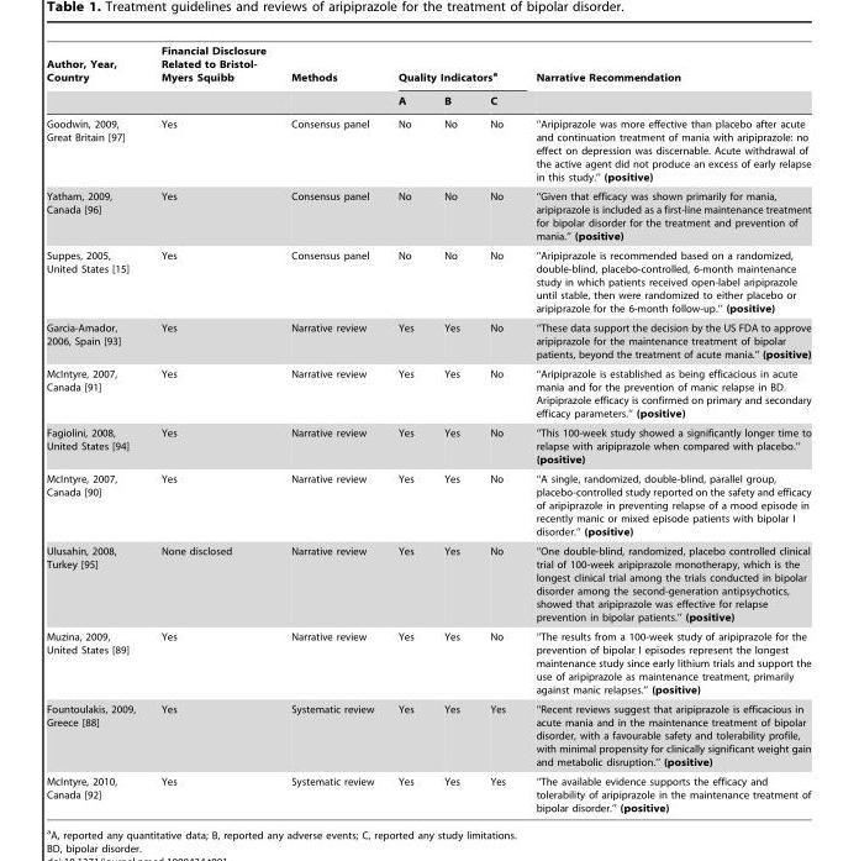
<table><thead><tr><td rowspan="2">Author, Year, Country</td><td rowspan="2">Financial Disclosure Related to Bristol- Myers Squibb</td><td rowspan="2">Methods</td><td colspan="3">Quality Indicators<sup>a</sup></td><td rowspan="2">Narrative Recommendation</td></tr><tr><td>A</td><td>B</td><td>C</td></tr></thead><tbody><tr><td>Goodwin, 2009, Great Britain [97]</td><td>Yes</td><td>Consensus panel</td><td>No</td><td>No</td><td>No</td><td>‘‘Aripiprazole was more effective than placebo after acute and continuation treatment of mania with aripiprazole: no effect on depression was discernable. Acute withdrawal of the active agent did not produce an excess of early relapse in this study.’’ (positive)</td></tr><tr><td>Yatham, 2009, Canada [96]</td><td>Yes</td><td>Consensus panel</td><td>No</td><td>No</td><td>No</td><td>‘‘Given that efficacy was shown primarily for mania, aripiprazole is included as a first-line maintenance treatment for bipolar disorder for the treatment and prevention of mania.’’ (positive)</td></tr><tr><td>Suppes, 2005, United States [15]</td><td>Yes</td><td>Consensus panel</td><td>No</td><td>No</td><td>No</td><td>‘‘Aripiprazole is recommended based on a randomized, double-blind, placebo-controlled, 6-month maintenance study in which patients received open-label aripiprazole until stable, then were randomized to either placebo or aripiprazole for the 6-month follow-up.’’ (positive)</td></tr><tr><td>Garcia-Amador, 2006, Spain [93]</td><td>Yes</td><td>Narrative review</td><td>Yes</td><td>Yes</td><td>No</td><td>‘‘These data support the decision by the US FDA to approve aripiprazole for the maintenance treatment of bipolar patients, beyond the treatment of acute mania.’’ (positive)</td></tr><tr><td>McIntyre, 2007, Canada [91]</td><td>Yes</td><td>Narrative review</td><td>Yes</td><td>Yes</td><td>No</td><td>‘‘Aripiprazole is established as being efficacious in acute mania and for the prevention of manic relapse in BD. Aripiprazole efficacy is confirmed on primary and secondary efficacy parameters.’’ (positive)</td></tr><tr><td>Fagiolini, 2008, United States [94]</td><td>Yes</td><td>Narrative review</td><td>Yes</td><td>Yes</td><td>No</td><td>‘‘This 100-week study showed a significantly longer time to relapse with aripiprazole when compared with placebo.’’ (positive)</td></tr><tr><td>McIntyre, 2007, Canada [90]</td><td>Yes</td><td>Narrative review</td><td>Yes</td><td>Yes</td><td>No</td><td>‘‘A single, randomized, double-blind, parallel group, placebo-controlled study reported on the safety and efficacy of aripiprazole in preventing relapse of a mood episode in recently manic or mixed episode patients with bipolar I disorder.’’ (positive)</td></tr><tr><td>Ulusahin, 2008, Turkey [95]</td><td>None disclosed</td><td>Narrative review</td><td>Yes</td><td>Yes</td><td>No</td><td>‘‘One double-blind, randomized, placebo controlled clinical trial of 100-week aripiprazole monotherapy, which is the longest clinical trial among the trials conducted in bipolar disorder among the second-generation antipsychotics, showed that aripiprazole was effective for relapse prevention in bipolar patients.’’ (positive)</td></tr><tr><td>Muzina, 2009, United States [89]</td><td>Yes</td><td>Narrative review</td><td>Yes</td><td>Yes</td><td>No</td><td>‘‘The results from a 100-week study of aripiprazole for the prevention of bipolar I episodes represent the longest maintenance study since early lithium trials and support the use of aripiprazole as maintenance treatment, primarily against manic relapses.’’ (positive)</td></tr><tr><td>Fountoulakis, 2009, Greece [88]</td><td>Yes</td><td>Systematic review</td><td>Yes</td><td>Yes</td><td>Yes</td><td>‘‘Recent reviews suggest that aripiprazole is efficacious in acute mania and in the maintenance treatment of bipolar disorder, with a favourable safety and tolerability profile, with minimal propensity for clinically significant weight gain and metabolic disruption.’’ (positive)</td></tr><tr><td>McIntyre, 2010, Canada [92]</td><td>Yes</td><td>Systematic review</td><td>Yes</td><td>Yes</td><td>Yes</td><td>‘‘The available evidence supports the efficacy and tolerability of aripiprazole in the maintenance treatment of bipolar disorder.’’ (positive)</td></tr></tbody></table>